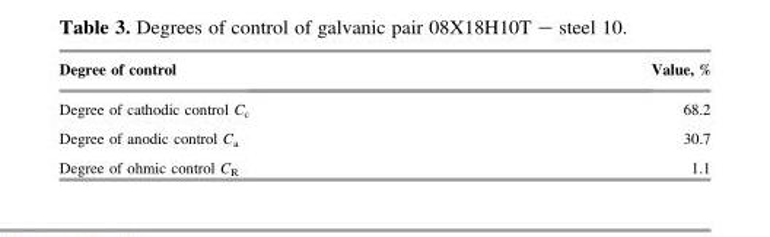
<table><thead><tr><td>Degree of control</td><td>Value, %</td></tr></thead><tbody><tr><td>Degree of cathodic control C<sub>c</sub></td><td>68.2</td></tr><tr><td>Degree of anodic control C<sub>a</sub></td><td>30.7</td></tr><tr><td>Degree of ohmic control C<sub>R</sub></td><td>1.1</td></tr></tbody></table>